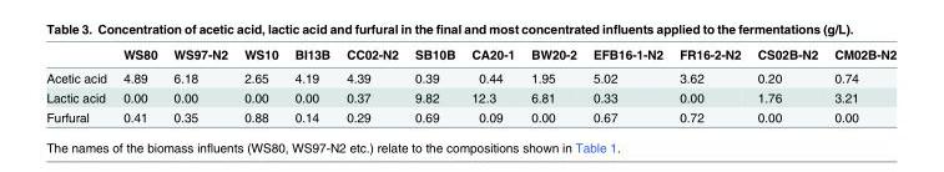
<table><thead><tr><td></td><td>WS80</td><td>WS97-N2</td><td>WS10</td><td>BI13B</td><td>CC02-N2</td><td>SB10B</td><td>CA20-1</td><td>BW20-2</td><td>EFB16-1-N2</td><td>FR16-2-N2</td><td>CS02B-N2</td><td>CM02B-N2</td></tr></thead><tbody><tr><td>Acetic acid</td><td>4.89</td><td>6.18</td><td>2.65</td><td>4.19</td><td>4.39</td><td>0.39</td><td>0.44</td><td>1.95</td><td>5.02</td><td>3.62</td><td>0.20</td><td>0.74</td></tr><tr><td>Lactic acid</td><td>0.00</td><td>0.00</td><td>0.00</td><td>0.00</td><td>0.37</td><td>9.82</td><td>12.3</td><td>6.81</td><td>0.33</td><td>0.00</td><td>1.76</td><td>3.21</td></tr><tr><td>Furfural</td><td>0.41</td><td>0.35</td><td>0.88</td><td>0.14</td><td>0.29</td><td>0.69</td><td>0.09</td><td>0.00</td><td>0.67</td><td>0.72</td><td>0.00</td><td>0.00</td></tr></tbody></table>